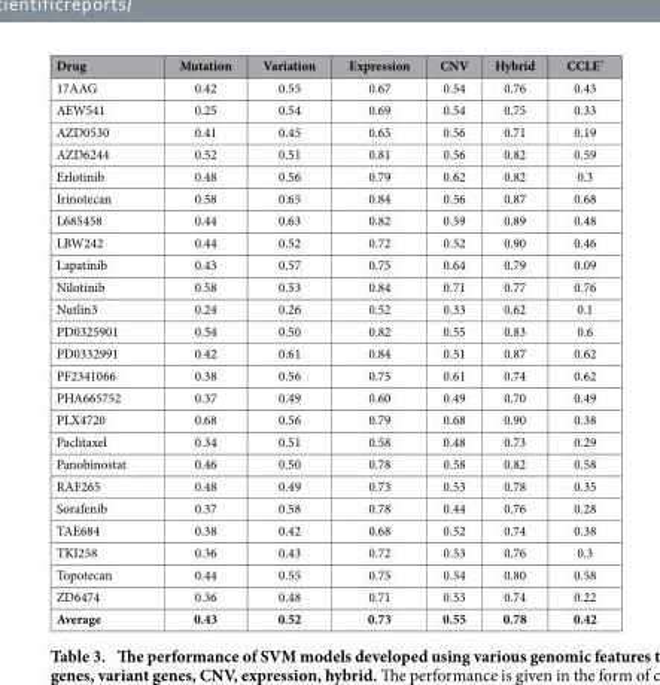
<table><thead><tr><td>Drug</td><td>Mutation</td><td>Variation</td><td>Expression</td><td>CNV</td><td>Hybrid</td><td>CCLE*</td></tr></thead><tbody><tr><td>17AAG</td><td>0.42</td><td>0.55</td><td>0.67</td><td>0.54</td><td>0.76</td><td>0.43</td></tr><tr><td>AEW541</td><td>0.25</td><td>0.54</td><td>0.69</td><td>0.54</td><td>0.75</td><td>0.33</td></tr><tr><td>AZD0530</td><td>0.41</td><td>0.45</td><td>0.65</td><td>0.56</td><td>0.71</td><td>0.19</td></tr><tr><td>AZD6244</td><td>0.52</td><td>0.51</td><td>0.81</td><td>0.56</td><td>0.82</td><td>0.59</td></tr><tr><td>Erlotinib</td><td>0.48</td><td>0.56</td><td>0.79</td><td>0.62</td><td>0.82</td><td>0.3</td></tr><tr><td>Irinotecan</td><td>0.58</td><td>0.65</td><td>0.84</td><td>0.56</td><td>0.87</td><td>0.68</td></tr><tr><td>L685458</td><td>0.44</td><td>0.63</td><td>0.82</td><td>0.59</td><td>0.89</td><td>0.48</td></tr><tr><td>LBW242</td><td>0.44</td><td>0.52</td><td>0.72</td><td>0.52</td><td>0.90</td><td>0.46</td></tr><tr><td>Lapatinib</td><td>0.43</td><td>0.57</td><td>0.75</td><td>0.64</td><td>0.79</td><td>0.09</td></tr><tr><td>Nilotinib</td><td>0.58</td><td>0.53</td><td>0.84</td><td>0.71</td><td>0.77</td><td>0.76</td></tr><tr><td>Nutlin3</td><td>0.24</td><td>0.26</td><td>0.52</td><td>0.33</td><td>0.62</td><td>0.1</td></tr><tr><td>PD0325901</td><td>0.54</td><td>0.50</td><td>0.82</td><td>0.55</td><td>0.83</td><td>0.6</td></tr><tr><td>PD0332991</td><td>0.42</td><td>0.61</td><td>0.84</td><td>0.51</td><td>0.87</td><td>0.62</td></tr><tr><td>PF2341066</td><td>0.38</td><td>0.56</td><td>0.75</td><td>0.61</td><td>0.74</td><td>0.62</td></tr><tr><td>PHA665752</td><td>0.37</td><td>0.49</td><td>0.60</td><td>0.49</td><td>0.70</td><td>0.49</td></tr><tr><td>PLX4720</td><td>0.68</td><td>0.56</td><td>0.79</td><td>0.68</td><td>0.90</td><td>0.38</td></tr><tr><td>Paclitaxel</td><td>0.34</td><td>0.51</td><td>0.58</td><td>0.48</td><td>0.73</td><td>0.29</td></tr><tr><td>Panobinostat</td><td>0.46</td><td>0.50</td><td>0.78</td><td>0.58</td><td>0.82</td><td>0.58</td></tr><tr><td>RAF265</td><td>0.48</td><td>0.49</td><td>0.73</td><td>0.53</td><td>0.78</td><td>0.35</td></tr><tr><td>Sorafenib</td><td>0.37</td><td>0.58</td><td>0.78</td><td>0.44</td><td>0.76</td><td>0.28</td></tr><tr><td>TAE684</td><td>0.38</td><td>0.42</td><td>0.68</td><td>0.52</td><td>0.74</td><td>0.38</td></tr><tr><td>TKI258</td><td>0.36</td><td>0.43</td><td>0.72</td><td>0.53</td><td>0.76</td><td>0.3</td></tr><tr><td>Topotecan</td><td>0.44</td><td>0.55</td><td>0.75</td><td>0.54</td><td>0.80</td><td>0.58</td></tr><tr><td>ZD6474</td><td>0.36</td><td>0.48</td><td>0.71</td><td>0.53</td><td>0.74</td><td>0.22</td></tr><tr><td>Average</td><td>0.43</td><td>0.52</td><td>0.73</td><td>0.55</td><td>0.78</td><td>0.42</td></tr></tbody></table>